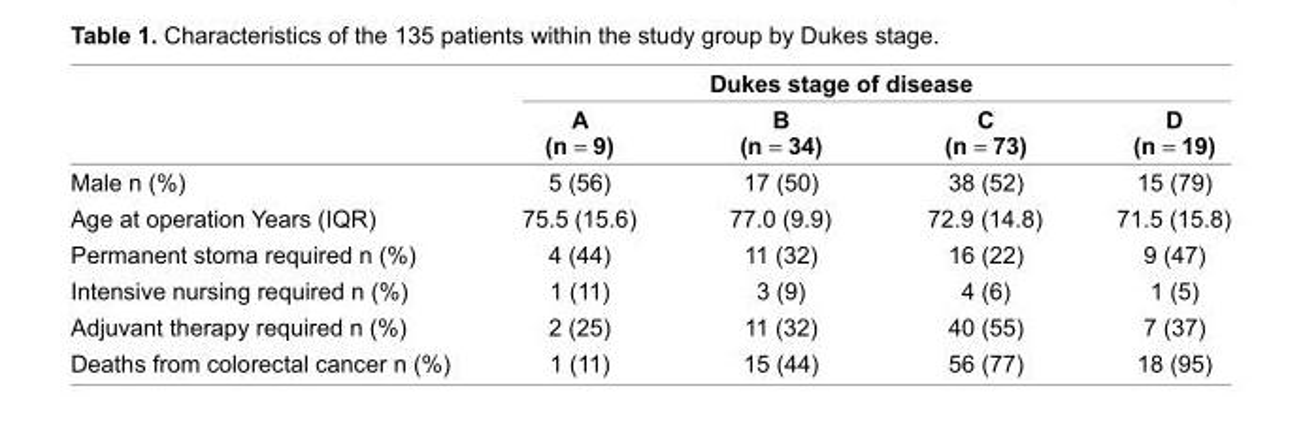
<table><thead><tr><td rowspan="2"></td><td colspan="4">Dukes stage of disease</td></tr><tr><td>A (n = 9)</td><td>B (n = 34)</td><td>C (n = 73)</td><td>D (n = 19)</td></tr></thead><tbody><tr><td>Male n (%)</td><td>5 (56)</td><td>17 (50)</td><td>38 (52)</td><td>15 (79)</td></tr><tr><td>Age at operation Years (IQR)</td><td>75.5 (15.6)</td><td>77.0 (9.9)</td><td>72.9 (14.8)</td><td>71.5 (15.8)</td></tr><tr><td>Permanent stoma required n (%)</td><td>4 (44)</td><td>11 (32)</td><td>16 (22)</td><td>9 (47)</td></tr><tr><td>Intensive nursing required n (%)</td><td>1 (11)</td><td>3 (9)</td><td>4 (6)</td><td>1 (5)</td></tr><tr><td>Adjuvant therapy required n (%)</td><td>2 (25)</td><td>11 (32)</td><td>40 (55)</td><td>7 (37)</td></tr><tr><td>Deaths from colorectal cancer n (%)</td><td>1 (11)</td><td>15 (44)</td><td>56 (77)</td><td>18 (95)</td></tr></tbody></table>